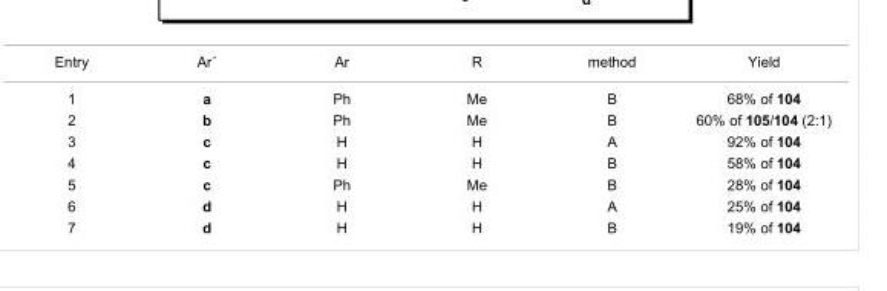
<table><tbody><tr><td>Entry</td><td>Ar´</td><td>Ar</td><td>R</td><td>method</td><td>Yield</td></tr><tr><td>1</td><td>a</td><td>Ph</td><td>Me</td><td>B</td><td>68% of 104</td></tr><tr><td>2</td><td>b</td><td>Ph</td><td>Me</td><td>B</td><td>60% of 105/104 (2:1)</td></tr><tr><td>3</td><td>c</td><td>H</td><td>H</td><td>A</td><td>92% of 104</td></tr><tr><td>4</td><td>c</td><td>H</td><td>H</td><td>B</td><td>58% of 104</td></tr><tr><td>5</td><td>c</td><td>Ph</td><td>Me</td><td>B</td><td>28% of 104</td></tr><tr><td>6</td><td>d</td><td>H</td><td>H</td><td>A</td><td>25% of 104</td></tr><tr><td>7</td><td>d</td><td>H</td><td>H</td><td>B</td><td>19% of 104</td></tr></tbody></table>